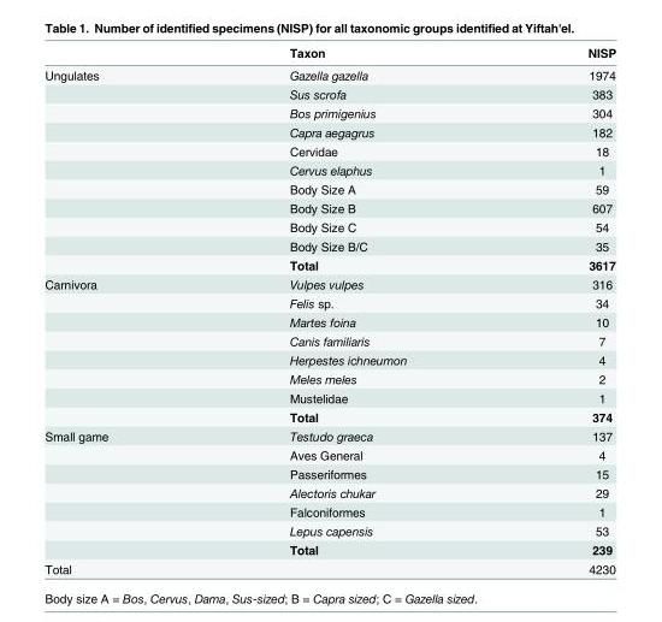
<table><thead><tr><td></td><td>Taxon</td><td>NISP</td></tr></thead><tbody><tr><td rowspan="11">Ungulates</td><td>Gazella gazella</td><td>1974</td></tr><tr><td>Sus scrofa</td><td>383</td></tr><tr><td>Bos primigenius</td><td>304</td></tr><tr><td>Capra aegagrus</td><td>182</td></tr><tr><td>Cervidae</td><td>18</td></tr><tr><td>Cervus elaphus</td><td>1</td></tr><tr><td>Body Size A</td><td>59</td></tr><tr><td>Body Size B</td><td>607</td></tr><tr><td>Body Size C</td><td>54</td></tr><tr><td>Body Size B/C</td><td>35</td></tr><tr><td>Total</td><td>3617</td></tr><tr><td rowspan="8">Carnivora</td><td>Vulpes vulpes</td><td>316</td></tr><tr><td>Felis sp.</td><td>34</td></tr><tr><td>Martes foina</td><td>10</td></tr><tr><td>Canis familiaris</td><td>7</td></tr><tr><td>Herpestes ichneumon</td><td>4</td></tr><tr><td>Meles meles</td><td>2</td></tr><tr><td>Mustelidae</td><td>1</td></tr><tr><td>Total</td><td>374</td></tr><tr><td rowspan="7">Small game</td><td>Testudo graeca</td><td>137</td></tr><tr><td>Aves General</td><td>4</td></tr><tr><td>Passeriformes</td><td>15</td></tr><tr><td>Alectoris chukar</td><td>29</td></tr><tr><td>Falconiformes</td><td>1</td></tr><tr><td>Lepus capensis</td><td>53</td></tr><tr><td>Total</td><td>239</td></tr><tr><td>Total</td><td></td><td>4230</td></tr></tbody></table>